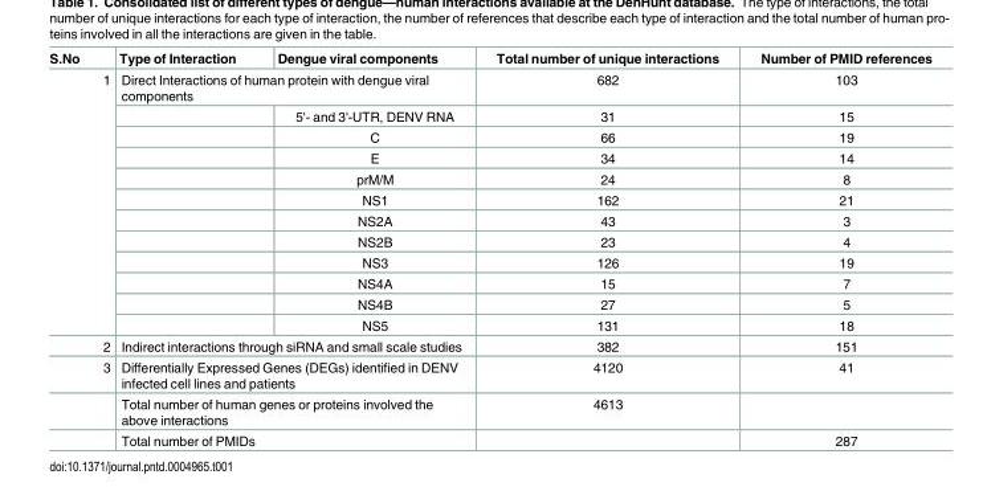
<table><thead><tr><td>S.No</td><td>Type of Interaction</td><td>Dengue viral components</td><td>Total number of unique interactions</td><td>Number of PMID references</td></tr></thead><tbody><tr><td rowspan="12">1</td><td colspan="2">Direct Interactions of human protein with dengue viral components</td><td>682</td><td>103</td></tr><tr><td></td><td>5&#x27;- and 3&#x27;-UTR, DENV RNA</td><td>31</td><td>15</td></tr><tr><td></td><td>C</td><td>66</td><td>19</td></tr><tr><td></td><td>E</td><td>34</td><td>14</td></tr><tr><td></td><td>prM/M</td><td>24</td><td>8</td></tr><tr><td></td><td>NS1</td><td>162</td><td>21</td></tr><tr><td></td><td>NS2A</td><td>43</td><td>3</td></tr><tr><td></td><td>NS2B</td><td>23</td><td>4</td></tr><tr><td></td><td>NS3</td><td>126</td><td>19</td></tr><tr><td></td><td>NS4A</td><td>15</td><td>7</td></tr><tr><td></td><td>NS4B</td><td>27</td><td>5</td></tr><tr><td></td><td>NS5</td><td>131</td><td>18</td></tr><tr><td>2</td><td colspan="2">Indirect interactions through siRNA and small scale studies</td><td>382</td><td>151</td></tr><tr><td rowspan="3">3</td><td colspan="2">Differentially Expressed Genes (DEGs) identified in DENV infected cell lines and patients</td><td>4120</td><td>41</td></tr><tr><td colspan="2">Total number of human genes or proteins involved the above interactions</td><td>4613</td><td></td></tr><tr><td colspan="2">Total number of PMIDs</td><td></td><td>287</td></tr></tbody></table>